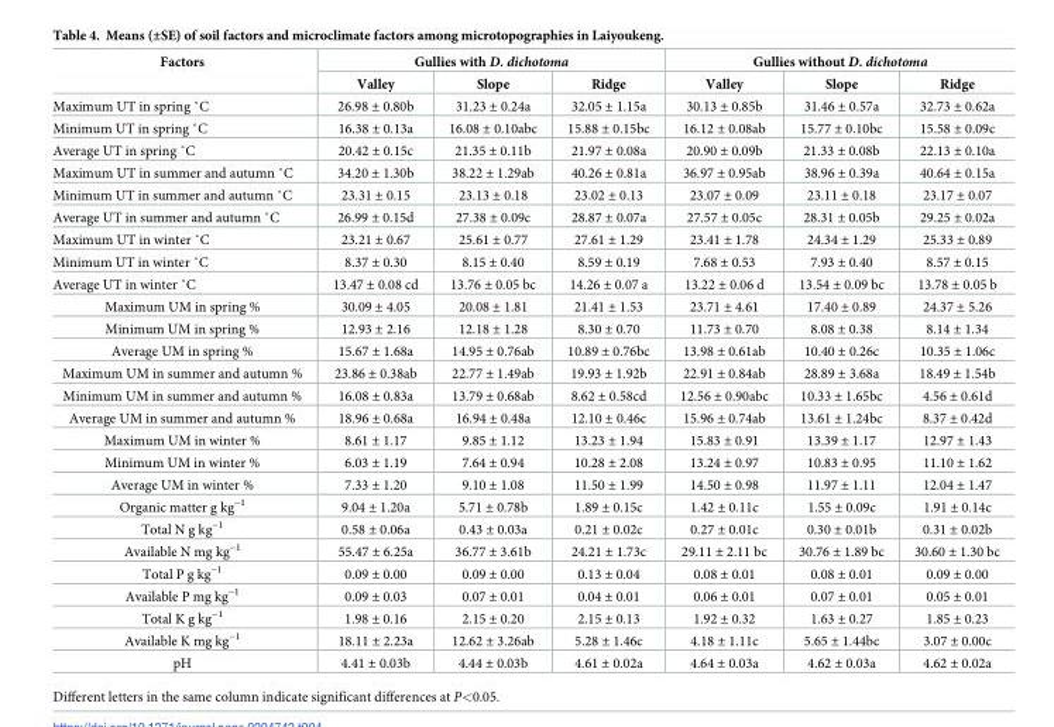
<table><thead><tr><td rowspan="2">Factors</td><td colspan="3">Gullies with D. dichotoma</td><td colspan="3">Gullies without D. dichotoma</td></tr><tr><td>Valley</td><td>Slope</td><td>Ridge</td><td>Valley</td><td>Slope</td><td>Ridge</td></tr></thead><tbody><tr><td>Maximum UT in spring ˚C</td><td>26.98 ± 0.80b</td><td>31.23 ± 0.24a</td><td>32.05 ± 1.15a</td><td>30.13 ± 0.85b</td><td>31.46 ± 0.57a</td><td>32.73 ± 0.62a</td></tr><tr><td>Minimum UT in spring ˚C</td><td>16.38 ± 0.13a</td><td>16.08 ± 0.10abc</td><td>15.88 ± 0.15bc</td><td>16.12 ± 0.08ab</td><td>15.77 ± 0.10bc</td><td>15.58 ± 0.09c</td></tr><tr><td>Average UT in spring ˚C</td><td>20.42 ± 0.15c</td><td>21.35 ± 0.11b</td><td>21.97 ± 0.08a</td><td>20.90 ± 0.09b</td><td>21.33 ± 0.08b</td><td>22.13 ± 0.10a</td></tr><tr><td>Maximum UT in summer and autumn ˚C</td><td>34.20 ± 1.30b</td><td>38.22 ± 1.29ab</td><td>40.26 ± 0.81a</td><td>36.97 ± 0.95ab</td><td>38.96 ± 0.39a</td><td>40.64 ± 0.15a</td></tr><tr><td>Minimum UT in summer and autumn ˚C</td><td>23.31 ± 0.15</td><td>23.13 ± 0.18</td><td>23.02 ± 0.13</td><td>23.07 ± 0.09</td><td>23.11 ± 0.18</td><td>23.17 ± 0.07</td></tr><tr><td>Average UT in summer and autumn ˚C</td><td>26.99 ± 0.15d</td><td>27.38 ± 0.09c</td><td>28.87 ± 0.07a</td><td>27.57 ± 0.05c</td><td>28.31 ± 0.05b</td><td>29.25 ± 0.02a</td></tr><tr><td>Maximum UT in winter ˚C</td><td>23.21 ± 0.67</td><td>25.61 ± 0.77</td><td>27.61 ± 1.29</td><td>23.41 ± 1.78</td><td>24.34 ± 1.29</td><td>25.33 ± 0.89</td></tr><tr><td>Minimum UT in winter ˚C</td><td>8.37 ± 0.30</td><td>8.15 ± 0.40</td><td>8.59 ± 0.19</td><td>7.68 ± 0.53</td><td>7.93 ± 0.40</td><td>8.57 ± 0.15</td></tr><tr><td>Average UT in winter ˚C</td><td>13.47 ± 0.08 cd</td><td>13.76 ± 0.05 bc</td><td>14.26 ± 0.07 a</td><td>13.22 ± 0.06 d</td><td>13.54 ± 0.09 bc</td><td>13.78 ± 0.05 b</td></tr><tr><td>Maximum UM in spring %</td><td>30.09 ± 4.05</td><td>20.08 ± 1.81</td><td>21.41 ± 1.53</td><td>23.71 ± 4.61</td><td>17.40 ± 0.89</td><td>24.37 ± 5.26</td></tr><tr><td>Minimum UM in spring %</td><td>12.93 ± 2.16</td><td>12.18 ± 1.28</td><td>8.30 ± 0.70</td><td>11.73 ± 0.70</td><td>8.08 ± 0.38</td><td>8.14 ± 1.34</td></tr><tr><td>Average UM in spring %</td><td>15.67 ± 1.68a</td><td>14.95 ± 0.76ab</td><td>10.89 ± 0.76bc</td><td>13.98 ± 0.61ab</td><td>10.40 ± 0.26c</td><td>10.35 ± 1.06c</td></tr><tr><td>Maximum UM in summer and autumn %</td><td>23.86 ± 0.38ab</td><td>22.77 ± 1.49ab</td><td>19.93 ± 1.92b</td><td>22.91 ± 0.84ab</td><td>28.89 ± 3.68a</td><td>18.49 ± 1.54b</td></tr><tr><td>Minimum UM in summer and autumn %</td><td>16.08 ± 0.83a</td><td>13.79 ± 0.68ab</td><td>8.62 ± 0.58cd</td><td>12.56 ± 0.90abc</td><td>10.33 ± 1.65bc</td><td>4.56 ± 0.61d</td></tr><tr><td>Average UM in summer and autumn %</td><td>18.96 ± 0.68a</td><td>16.94 ± 0.48a</td><td>12.10 ± 0.46c</td><td>15.96 ± 0.74ab</td><td>13.61 ± 1.24bc</td><td>8.37 ± 0.42d</td></tr><tr><td>Maximum UM in winter %</td><td>8.61 ± 1.17</td><td>9.85 ± 1.12</td><td>13.23 ± 1.94</td><td>15.83 ± 0.91</td><td>13.39 ± 1.17</td><td>12.97 ± 1.43</td></tr><tr><td>Minimum UM in winter %</td><td>6.03 ± 1.19</td><td>7.64 ± 0.94</td><td>10.28 ± 2.08</td><td>13.24 ± 0.97</td><td>10.83 ± 0.95</td><td>11.10 ± 1.62</td></tr><tr><td>Average UM in winter %</td><td>7.33 ± 1.20</td><td>9.10 ± 1.08</td><td>11.50 ± 1.99</td><td>14.50 ± 0.98</td><td>11.97 ± 1.11</td><td>12.04 ± 1.47</td></tr><tr><td>Organic matter g kg<sup>−1</sup></td><td>9.04 ± 1.20a</td><td>5.71 ± 0.78b</td><td>1.89 ± 0.15c</td><td>1.42 ± 0.11c</td><td>1.55 ± 0.09c</td><td>1.91 ± 0.14c</td></tr><tr><td>Total N g kg<sup>−1</sup></td><td>0.58 ± 0.06a</td><td>0.43 ± 0.03a</td><td>0.21 ± 0.02c</td><td>0.27 ± 0.01c</td><td>0.30 ± 0.01b</td><td>0.31 ± 0.02b</td></tr><tr><td>Available N mg kg<sup>−1</sup></td><td>55.47 ± 6.25a</td><td>36.77 ± 3.61b</td><td>24.21 ± 1.73c</td><td>29.11 ± 2.11 bc</td><td>30.76 ± 1.89 bc</td><td>30.60 ± 1.30 bc</td></tr><tr><td>Total P g kg<sup>−1</sup></td><td>0.09 ± 0.00</td><td>0.09 ± 0.00</td><td>0.13 ± 0.04</td><td>0.08 ± 0.01</td><td>0.08 ± 0.01</td><td>0.09 ± 0.00</td></tr><tr><td>Available P mg kg<sup>−1</sup></td><td>0.09 ± 0.03</td><td>0.07 ± 0.01</td><td>0.04 ± 0.01</td><td>0.06 ± 0.01</td><td>0.07 ± 0.01</td><td>0.05 ± 0.01</td></tr><tr><td>Total K g kg<sup>−1</sup></td><td>1.98 ± 0.16</td><td>2.15 ± 0.20</td><td>2.15 ± 0.13</td><td>1.92 ± 0.32</td><td>1.63 ± 0.27</td><td>1.85 ± 0.23</td></tr><tr><td>Available K mg kg<sup>−1</sup></td><td>18.11 ± 2.23a</td><td>12.62 ± 3.26ab</td><td>5.28 ± 1.46c</td><td>4.18 ± 1.11c</td><td>5.65 ± 1.44bc</td><td>3.07 ± 0.00c</td></tr><tr><td>pH</td><td>4.41 ± 0.03b</td><td>4.44 ± 0.03b</td><td>4.61 ± 0.02a</td><td>4.64 ± 0.03a</td><td>4.62 ± 0.03a</td><td>4.62 ± 0.02a</td></tr></tbody></table>